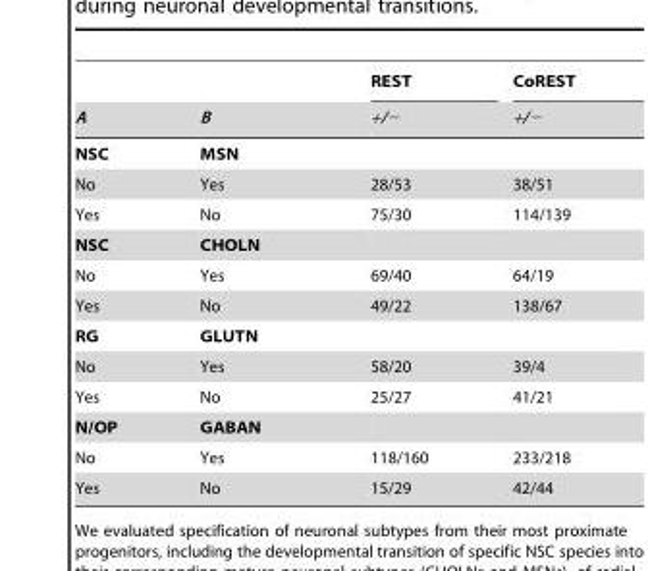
<table><thead><tr><td rowspan="2">A</td><td rowspan="2">B</td><td rowspan="2">REST +/−</td><td rowspan="2">CoREST +/−</td></tr><tr></tr></thead><tbody><tr><td>NSC</td><td>MSN</td><td></td><td></td></tr><tr><td>No</td><td>Yes</td><td>28/53</td><td>38/51</td></tr><tr><td>Yes</td><td>No</td><td>75/30</td><td>114/139</td></tr><tr><td>NSC</td><td>CHOLN</td><td></td><td></td></tr><tr><td>No</td><td>Yes</td><td>69/40</td><td>64/19</td></tr><tr><td>Yes</td><td>No</td><td>49/22</td><td>138/67</td></tr><tr><td>RG</td><td>GLUTN</td><td></td><td></td></tr><tr><td>No</td><td>Yes</td><td>58/20</td><td>39/4</td></tr><tr><td>Yes</td><td>No</td><td>25/27</td><td>41/21</td></tr><tr><td>N/OP</td><td>GABAN</td><td></td><td></td></tr><tr><td>No</td><td>Yes</td><td>118/160</td><td>233/218</td></tr><tr><td>Yes</td><td>No</td><td>15/29</td><td>42/44</td></tr></tbody></table>